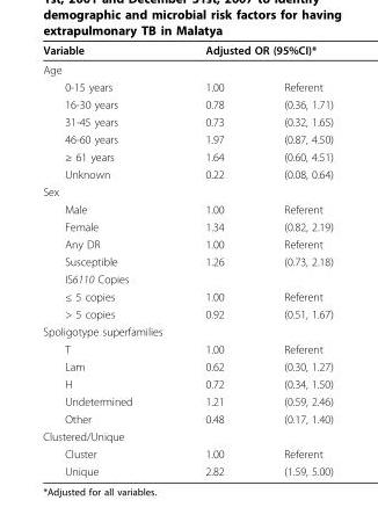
<table><thead><tr><td rowspan="2">Variable Age</td><td colspan="2">Adjusted OR (95%CI)*</td></tr><tr><td></td><td></td></tr></thead><tbody><tr><td>0-15 years</td><td>1.00</td><td>Referent</td></tr><tr><td>16-30 years</td><td>0.78</td><td>(0.36, 1.71)</td></tr><tr><td>31-45 years</td><td>0.73</td><td>(0.32, 1.65)</td></tr><tr><td>46-60 years</td><td>1.97</td><td>(0.87, 4.50)</td></tr><tr><td>≥ 61 years</td><td>1.64</td><td>(0.60, 4.51)</td></tr><tr><td>Unknown</td><td>0.22</td><td>(0.08, 0.64)</td></tr><tr><td colspan="3">Sex</td></tr><tr><td>Male</td><td>1.00</td><td>Referent</td></tr><tr><td>Female</td><td>1.34</td><td>(0.82, 2.19)</td></tr><tr><td>Any DR</td><td>1.00</td><td>Referent</td></tr><tr><td>Susceptible</td><td>1.26</td><td>(0.73, 2.18)</td></tr><tr><td colspan="3">IS6110 Copies</td></tr><tr><td>≤ 5 copies</td><td>1.00</td><td>Referent</td></tr><tr><td>&gt; 5 copies</td><td>0.92</td><td>(0.51, 1.67)</td></tr><tr><td colspan="3">Spoligotype superfamilies</td></tr><tr><td>T</td><td>1.00</td><td>Referent</td></tr><tr><td>Lam</td><td>0.62</td><td>(0.30, 1.27)</td></tr><tr><td>H</td><td>0.72</td><td>(0.34, 1.50)</td></tr><tr><td>Undetermined</td><td>1.21</td><td>(0.59, 2.46)</td></tr><tr><td>Other</td><td>0.48</td><td>(0.17, 1.40)</td></tr><tr><td colspan="3">Clustered/Unique</td></tr><tr><td>Cluster</td><td>1.00</td><td>Referent</td></tr><tr><td>Unique</td><td>2.82</td><td>(1.59, 5.00)</td></tr></tbody></table>